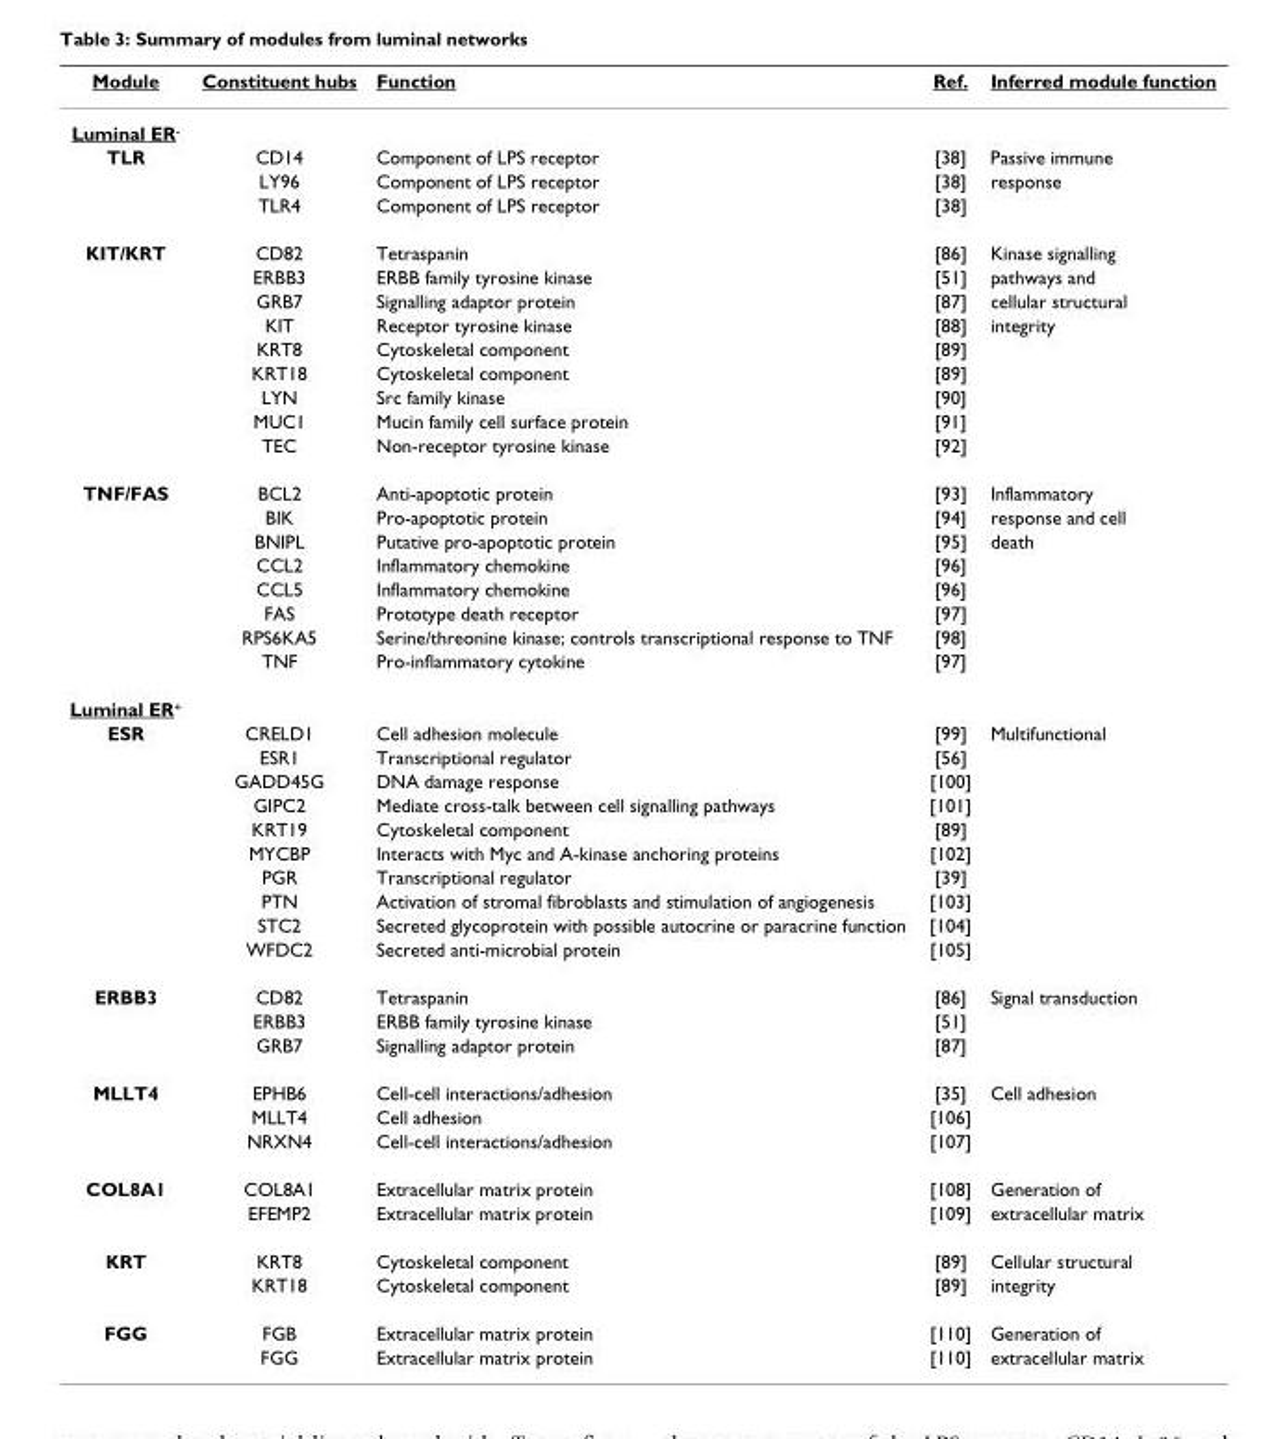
<table><thead><tr><td>Module</td><td>Constituent hubs</td><td>Function</td><td>Ref.</td><td>Inferred module function</td></tr></thead><tbody><tr><td colspan="5">Luminal ER<sup>-</sup></td></tr><tr><td rowspan="3">TLR</td><td>CD14</td><td>Component of LPS receptor</td><td>[38]</td><td>Passive immune</td></tr><tr><td>LY96</td><td>Component of LPS receptor</td><td>[38]</td><td>response</td></tr><tr><td>TLR4</td><td>Component of LPS receptor</td><td>[38]</td><td></td></tr><tr><td rowspan="9">KIT/KRT</td><td>CD82</td><td>Tetraspanin</td><td>[86]</td><td>Kinase signalling</td></tr><tr><td>ERBB3</td><td>ERBB family tyrosine kinase</td><td>[51]</td><td>pathways and</td></tr><tr><td>GRB7</td><td>Signalling adaptor protein</td><td>[87]</td><td>cellular structural</td></tr><tr><td>KIT</td><td>Receptor tyrosine kinase</td><td>[88]</td><td>integrity</td></tr><tr><td>KRT8</td><td>Cytoskeletal component</td><td>[89]</td><td></td></tr><tr><td>KRT18</td><td>Cytoskeletal component</td><td>[89]</td><td></td></tr><tr><td>LYN</td><td>Src family kinase</td><td>[90]</td><td></td></tr><tr><td>MUC1</td><td>Mucin family cell surface protein</td><td>[91]</td><td></td></tr><tr><td>TEC</td><td>Non-receptor tyrosine kinase</td><td>[92]</td><td></td></tr><tr><td rowspan="8">TNF/FAS</td><td>BCL2</td><td>Anti-apoptotic protein</td><td>[93]</td><td>Inflammatory</td></tr><tr><td>BIK</td><td>Pro-apoptotic protein</td><td>[94]</td><td>response and cell</td></tr><tr><td>BNIPL</td><td>Putative pro-apoptotic protein</td><td>[95]</td><td>death</td></tr><tr><td>CCL2</td><td>Inflammatory chemokine</td><td>[96]</td><td></td></tr><tr><td>CCL5</td><td>Inflammatory chemokine</td><td>[96]</td><td></td></tr><tr><td>FAS</td><td>Prototype death receptor</td><td>[97]</td><td></td></tr><tr><td>RPS6KA5</td><td>Serine/threonine kinase; controls transcriptional response to TNF</td><td>[98]</td><td></td></tr><tr><td>TNF</td><td>Pro-inflammatory cytokine</td><td>[97]</td><td></td></tr><tr><td colspan="5">Luminal ER<sup>+</sup></td></tr><tr><td rowspan="10">ESR</td><td>CRELD1</td><td>Cell adhesion molecule</td><td>[99]</td><td>Multifunctional</td></tr><tr><td>ESR1</td><td>Transcriptional regulator</td><td>[56]</td><td></td></tr><tr><td>GADD45G</td><td>DNA damage response</td><td>[100]</td><td></td></tr><tr><td>GIPC2</td><td>Mediate cross-talk between cell signalling pathways</td><td>[101]</td><td></td></tr><tr><td>KRT19</td><td>Cytoskeletal component</td><td>[89]</td><td></td></tr><tr><td>MYCBP</td><td>Interacts with Myc and A-kinase anchoring proteins</td><td>[102]</td><td></td></tr><tr><td>PGR</td><td>Transcriptional regulator</td><td>[39]</td><td></td></tr><tr><td>PTN</td><td>Activation of stromal fibroblasts and stimulation of angiogenesis</td><td>[103]</td><td></td></tr><tr><td>STC2</td><td>Secreted glycoprotein with possible autocrine or paracrine function</td><td>[104]</td><td></td></tr><tr><td>WFDC2</td><td>Secreted anti-microbial protein</td><td>[105]</td><td></td></tr><tr><td rowspan="3">ERBB3</td><td>CD82</td><td>Tetraspanin</td><td>[86]</td><td>Signal transduction</td></tr><tr><td>ERBB3</td><td>ERBB family tyrosine kinase</td><td>[51]</td><td></td></tr><tr><td>GRB7</td><td>Signalling adaptor protein</td><td>[87]</td><td></td></tr><tr><td rowspan="3">MLLT4</td><td>EPHB6</td><td>Cell-cell interactions/adhesion</td><td>[35]</td><td>Cell adhesion</td></tr><tr><td>MLLT4</td><td>Cell adhesion</td><td>[106]</td><td></td></tr><tr><td>NRXN4</td><td>Cell-cell interactions/adhesion</td><td>[107]</td><td></td></tr><tr><td rowspan="2">COL8A1</td><td>COL8A1</td><td>Extracellular matrix protein</td><td>[108]</td><td>Generation of</td></tr><tr><td>EFEMP2</td><td>Extracellular matrix protein</td><td>[109]</td><td>extracellular matrix</td></tr><tr><td rowspan="2">KRT</td><td>KRT8</td><td>Cytoskeletal component</td><td>[89]</td><td>Cellular structural</td></tr><tr><td>KRT18</td><td>Cytoskeletal component</td><td>[89]</td><td>integrity</td></tr><tr><td rowspan="2">FGG</td><td>FGB</td><td>Extracellular matrix protein</td><td>[110]</td><td>Generation of</td></tr><tr><td>FGG</td><td>Extracellular matrix protein</td><td>[110]</td><td>extracellular matrix</td></tr></tbody></table>